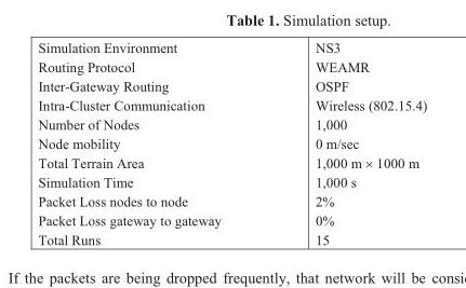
<table><tbody><tr><td>Simulation Environment</td><td>NS3</td></tr><tr><td>Routing Protocol</td><td>WEAMR</td></tr><tr><td>Inter-Gateway Routing</td><td>OSPF</td></tr><tr><td>Intra-Cluster Communication</td><td>Wireless (802.15.4)</td></tr><tr><td>Number of Nodes</td><td>1,000</td></tr><tr><td>Node mobility</td><td>0 m/sec</td></tr><tr><td>Total Terrain Area</td><td>1,000 m × 1000 m</td></tr><tr><td>Simulation Time</td><td>1,000 s</td></tr><tr><td>Packet Loss nodes to node</td><td>2%</td></tr><tr><td>Packet Loss gateway to gateway</td><td>0%</td></tr><tr><td>Total Runs</td><td>15</td></tr></tbody></table>